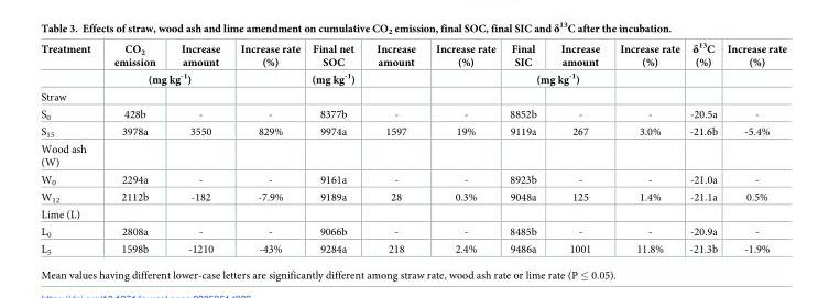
<table><thead><tr><td rowspan="2">Treatment</td><td>CO<sub>2</sub> emission</td><td>Increase amount</td><td rowspan="2">Increase rate (%)</td><td rowspan="2">Final net SOC (mg kg<sup>-1</sup>)</td><td rowspan="2">Increase amount</td><td rowspan="2">Increase rate (%)</td><td>Final SIC</td><td>Increase amount</td><td rowspan="2">Increase rate (%)</td><td rowspan="2">δ<sup>13</sup>C (%)</td><td rowspan="2">Increase rate (%)</td></tr><tr><td colspan="2">(mg kg<sup>-1</sup>)</td><td colspan="2">(mg kg<sup>-1</sup>)</td></tr></thead><tbody><tr><td colspan="12">Straw</td></tr><tr><td>S<sub>0</sub></td><td>428b</td><td>-</td><td>-</td><td>8377b</td><td>-</td><td>-</td><td>8852b</td><td>-</td><td>-</td><td>-20.5a</td><td>-</td></tr><tr><td>S<sub>15</sub></td><td>3978a</td><td>3550</td><td>829%</td><td>9974a</td><td>1597</td><td>19%</td><td>9119a</td><td>267</td><td>3.0%</td><td>-21.6b</td><td>-5.4%</td></tr><tr><td colspan="12">Wood ash (W)</td></tr><tr><td>W<sub>0</sub></td><td>2294a</td><td>-</td><td>-</td><td>9161a</td><td>-</td><td>-</td><td>8923b</td><td>-</td><td>-</td><td>-21.0a</td><td>-</td></tr><tr><td>W<sub>12</sub></td><td>2112b</td><td>-182</td><td>-7.9%</td><td>9189a</td><td>28</td><td>0.3%</td><td>9048a</td><td>125</td><td>1.4%</td><td>-21.1a</td><td>0.5%</td></tr><tr><td colspan="12">Lime (L)</td></tr><tr><td>L<sub>0</sub></td><td>2808a</td><td>-</td><td>-</td><td>9066b</td><td>-</td><td>-</td><td>8485b</td><td>-</td><td>-</td><td>-20.9a</td><td>-</td></tr><tr><td>L<sub>5</sub></td><td>1598b</td><td>-1210</td><td>-43%</td><td>9284a</td><td>218</td><td>2.4%</td><td>9486a</td><td>1001</td><td>11.8%</td><td>-21.3b</td><td>-1.9%</td></tr></tbody></table>